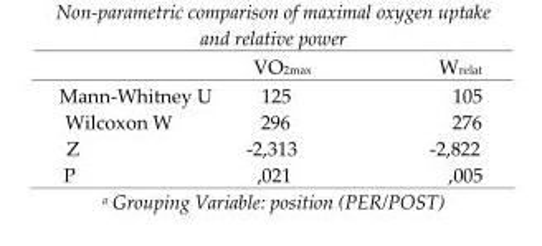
<table><thead><tr><td></td><td>VO<sub>2max</sub></td><td>W<sub>relat</sub></td></tr></thead><tbody><tr><td>Mann-Whitney U</td><td>125</td><td>105</td></tr><tr><td>Wilcoxon W</td><td>296</td><td>276</td></tr><tr><td>Z</td><td>-2,313</td><td>-2,822</td></tr><tr><td>P</td><td>,021</td><td>,005</td></tr></tbody></table>